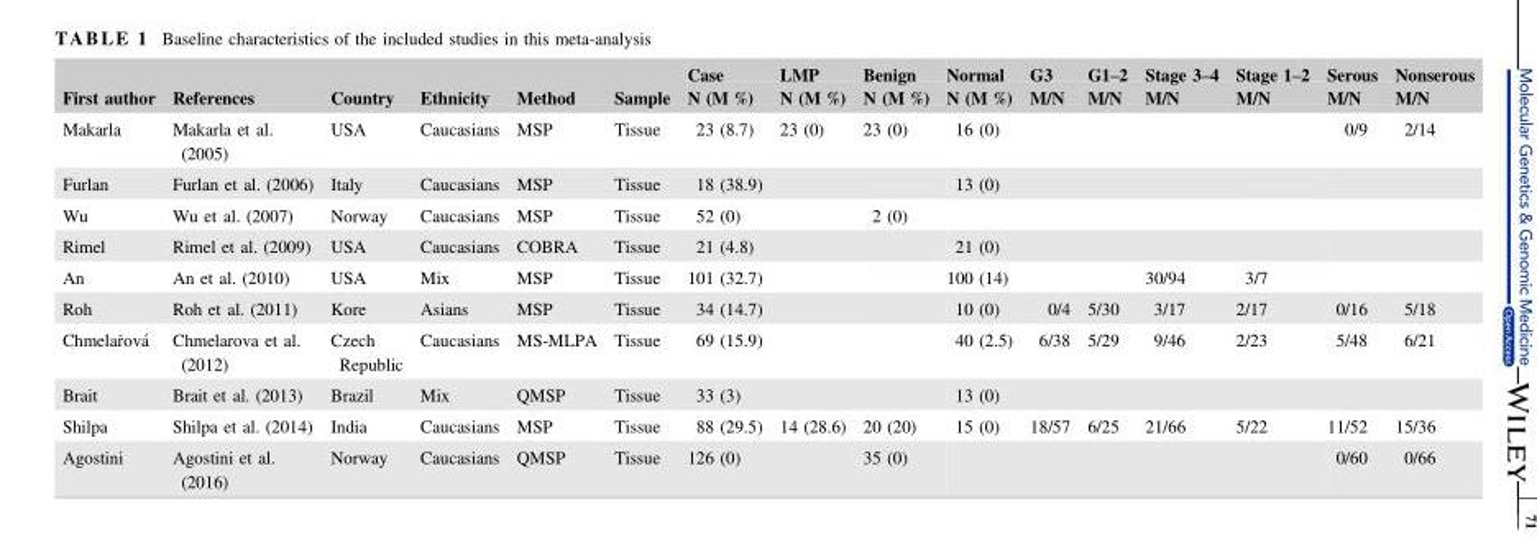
<table><thead><tr><td rowspan="2">First author</td><td rowspan="2">References</td><td rowspan="2">Country</td><td rowspan="2">Ethnicity</td><td rowspan="2">Method</td><td rowspan="2">Sample</td><td rowspan="2">Case N (M %)</td><td rowspan="2">LMP N (M %)</td><td rowspan="2">Benign N (M %)</td><td rowspan="2">Normal N (M %)</td><td rowspan="2">G3 M/N</td><td rowspan="2">G1–2 M/N</td><td rowspan="2">Stage 3–4 M/N</td><td rowspan="2">Stage 1–2 M/N</td><td rowspan="2">Serous M/N</td><td rowspan="2">Nonserous M/N</td></tr><tr></tr></thead><tbody><tr><td>Makarla</td><td>Makarla et al. (2005)</td><td>USA</td><td>Caucasians</td><td>MSP</td><td>Tissue</td><td>23 (8.7)</td><td>23 (0)</td><td>23 (0)</td><td>16 (0)</td><td></td><td></td><td></td><td></td><td>0/9</td><td>2/14</td></tr><tr><td>Furlan</td><td>Furlan et al. (2006)</td><td>Italy</td><td>Caucasians</td><td>MSP</td><td>Tissue</td><td>18 (38.9)</td><td></td><td></td><td>13 (0)</td><td></td><td></td><td></td><td></td><td></td><td></td></tr><tr><td>Wu</td><td>Wu et al. (2007)</td><td>Norway</td><td>Caucasians</td><td>MSP</td><td>Tissue</td><td>52 (0)</td><td></td><td>2 (0)</td><td></td><td></td><td></td><td></td><td></td><td></td><td></td></tr><tr><td>Rimel</td><td>Rimel et al. (2009)</td><td>USA</td><td>Caucasians</td><td>COBRA</td><td>Tissue</td><td>21 (4.8)</td><td></td><td></td><td>21 (0)</td><td></td><td></td><td></td><td></td><td></td><td></td></tr><tr><td>An</td><td>An et al. (2010)</td><td>USA</td><td>Mix</td><td>MSP</td><td>Tissue</td><td>101 (32.7)</td><td></td><td></td><td>100 (14)</td><td></td><td></td><td>30/94</td><td>3/7</td><td></td><td></td></tr><tr><td>Roh</td><td>Roh et al. (2011)</td><td>Kore</td><td>Asians</td><td>MSP</td><td>Tissue</td><td>34 (14.7)</td><td></td><td></td><td>10 (0)</td><td>0/4</td><td>5/30</td><td>3/17</td><td>2/17</td><td>0/16</td><td>5/18</td></tr><tr><td>Chmela�rov�a</td><td>Chmelarova et al. (2012)</td><td>Czech Republic</td><td>Caucasians</td><td>MS-MLPA</td><td>Tissue</td><td>69 (15.9)</td><td></td><td></td><td>40 (2.5)</td><td>6/38</td><td>5/29</td><td>9/46</td><td>2/23</td><td>5/48</td><td>6/21</td></tr><tr><td>Brait</td><td>Brait et al. (2013)</td><td>Brazil</td><td>Mix</td><td>QMSP</td><td>Tissue</td><td>33 (3)</td><td></td><td></td><td>13 (0)</td><td></td><td></td><td></td><td></td><td></td><td></td></tr><tr><td>Shilpa</td><td>Shilpa et al. (2014)</td><td>India</td><td>Caucasians</td><td>MSP</td><td>Tissue</td><td>88 (29.5)</td><td>14 (28.6)</td><td>20 (20)</td><td>15 (0)</td><td>18/57</td><td>6/25</td><td>21/66</td><td>5/22</td><td>11/52</td><td>15/36</td></tr><tr><td>Agostini</td><td>Agostini et al. (2016)</td><td>Norway</td><td>Caucasians</td><td>QMSP</td><td>Tissue</td><td>126 (0)</td><td></td><td>35 (0)</td><td></td><td></td><td></td><td></td><td></td><td>0/60</td><td>0/66</td></tr></tbody></table>